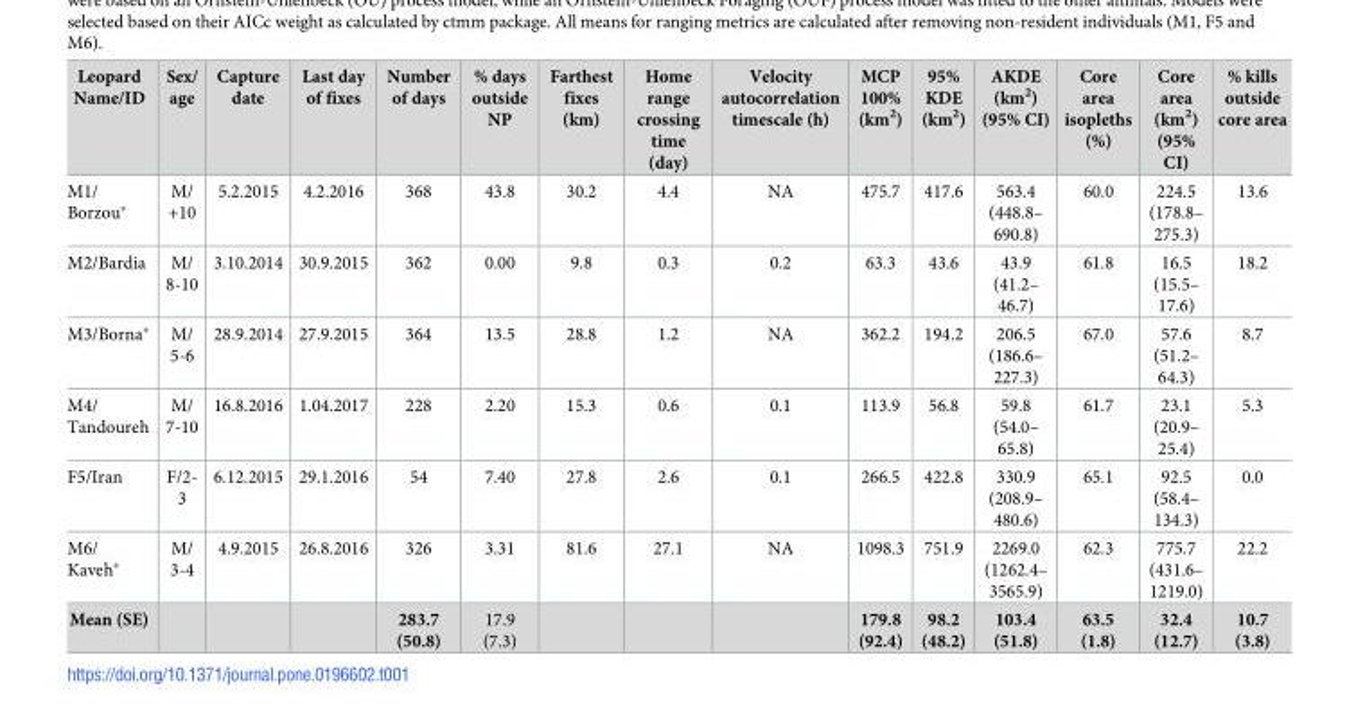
<table><thead><tr><td>Leopard Name/ID</td><td>Sex/ age</td><td>Capture date</td><td>Last day of fixes</td><td>Number of days</td><td>% days outside NP</td><td>Farthest fixes (km)</td><td>Home range crossing time (day)</td><td>Velocity autocorrelation timescale (h)</td><td>MCP 100% (km<sup>2</sup>)</td><td>95% KDE (km<sup>2</sup>)</td><td>AKDE (km<sup>2</sup>) (95% CI)</td><td>Core area isopleths (%)</td><td>Core area (km<sup>2</sup>) (95% CI)</td><td>% kills outside core area</td></tr></thead><tbody><tr><td>M1/ Borzou*</td><td>M/ +10</td><td>5.2.2015</td><td>4.2.2016</td><td>368</td><td>43.8</td><td>30.2</td><td>4.4</td><td>NA</td><td>475.7</td><td>417.6</td><td>563.4 (448.8– 690.8)</td><td>60.0</td><td>224.5 (178.8– 275.3)</td><td>13.6</td></tr><tr><td>M2/Bardia</td><td>M/ 8-10</td><td>3.10.2014</td><td>30.9.2015</td><td>362</td><td>0.00</td><td>9.8</td><td>0.3</td><td>0.2</td><td>63.3</td><td>43.6</td><td>43.9 (41.2– 46.7)</td><td>61.8</td><td>16.5 (15.5– 17.6)</td><td>18.2</td></tr><tr><td>M3/Borna*</td><td>M/ 5-6</td><td>28.9.2014</td><td>27.9.2015</td><td>364</td><td>13.5</td><td>28.8</td><td>1.2</td><td>NA</td><td>362.2</td><td>194.2</td><td>206.5 (186.6– 227.3)</td><td>67.0</td><td>57.6 (51.2– 64.3)</td><td>8.7</td></tr><tr><td>M4/ Tandoureh</td><td>M/ 7-10</td><td>16.8.2016</td><td>1.04.2017</td><td>228</td><td>2.20</td><td>15.3</td><td>0.6</td><td>0.1</td><td>113.9</td><td>56.8</td><td>59.8 (54.0– 65.8)</td><td>61.7</td><td>23.1 (20.9– 25.4)</td><td>5.3</td></tr><tr><td>F5/Iran</td><td>F/2- 3</td><td>6.12.2015</td><td>29.1.2016</td><td>54</td><td>7.40</td><td>27.8</td><td>2.6</td><td>0.1</td><td>266.5</td><td>422.8</td><td>330.9 (208.9– 480.6)</td><td>65.1</td><td>92.5 (58.4– 134.3)</td><td>0.0</td></tr><tr><td>M6/ Kaveh*</td><td>M/ 3-4</td><td>4.9.2015</td><td>26.8.2016</td><td>326</td><td>3.31</td><td>81.6</td><td>27.1</td><td>NA</td><td>1098.3</td><td>751.9</td><td>2269.0 (1262.4– 3565.9)</td><td>62.3</td><td>775.7 (431.6– 1219.0)</td><td>22.2</td></tr><tr><td>Mean (SE)</td><td></td><td></td><td></td><td>283.7 (50.8)</td><td>17.9 (7.3)</td><td></td><td></td><td></td><td>179.8 (92.4)</td><td>98.2 (48.2)</td><td>103.4 (51.8)</td><td>63.5 (1.8)</td><td>32.4 (12.7)</td><td>10.7 (3.8)</td></tr></tbody></table>